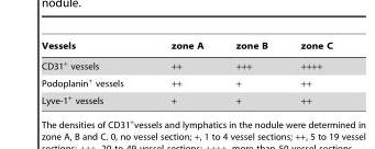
<table><thead><tr><td>Vessels</td><td>zone A</td><td>zone B</td><td>zone C</td></tr></thead><tbody><tr><td>CD31<sup>+</sup> vessels</td><td>++</td><td>+++</td><td>++++</td></tr><tr><td>Podoplanin<sup>+</sup> vessels</td><td>++</td><td>+</td><td>++</td></tr><tr><td>Lyve-1<sup>+</sup> vessels</td><td>+</td><td>+</td><td>++</td></tr></tbody></table>